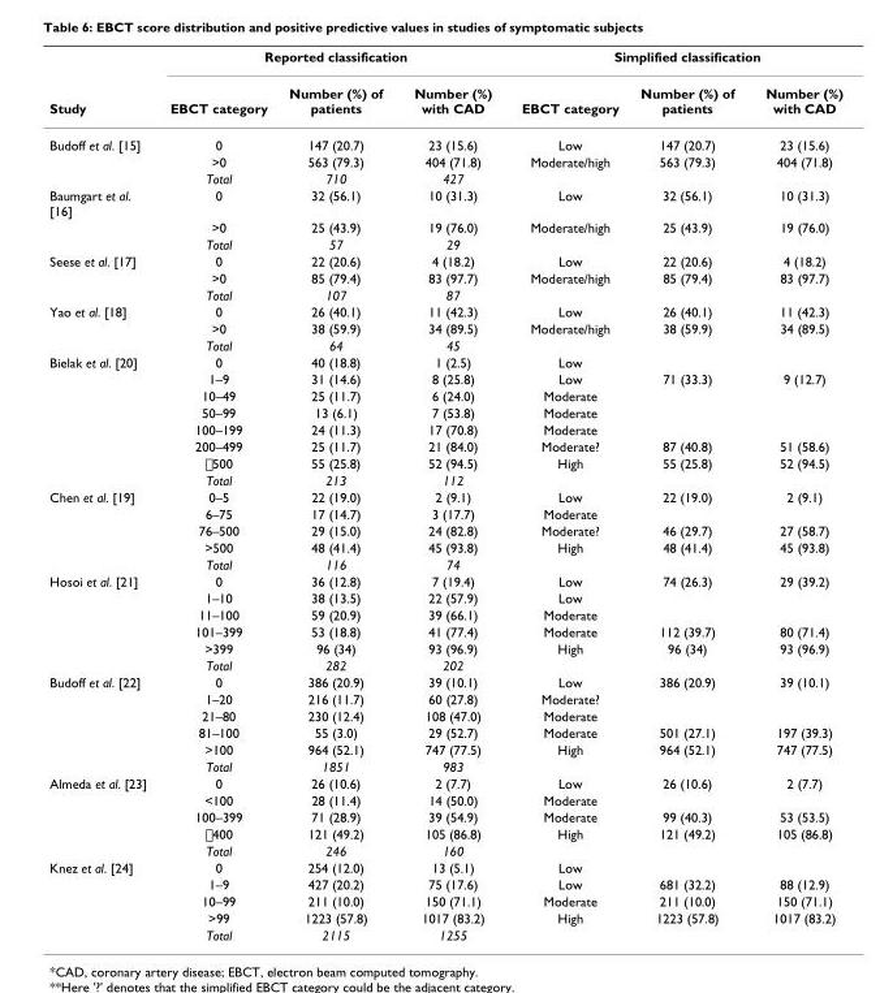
<table><thead><tr><td rowspan="2">Study</td><td colspan="3">Reported classification</td><td colspan="3">Simplified classification</td></tr><tr><td>EBCT category</td><td>Number (%) of patients</td><td>Number (%) with CAD</td><td>EBCT category</td><td>Number (%) of patients</td><td>Number (%) with CAD</td></tr></thead><tbody><tr><td rowspan="3">Budoff et al. [15]</td><td>0</td><td>147 (20.7)</td><td>23 (15.6)</td><td>Low</td><td>147 (20.7)</td><td>23 (15.6)</td></tr><tr><td>&gt;0</td><td>563 (79.3)</td><td>404 (71.8)</td><td>Moderate/high</td><td>563 (79.3)</td><td>404 (71.8)</td></tr><tr><td>Total</td><td>710</td><td>427</td><td></td><td></td><td></td></tr><tr><td rowspan="3">Baumgart et al. [16]</td><td>0</td><td>32 (56.1)</td><td>10 (31.3)</td><td>Low</td><td>32 (56.1)</td><td>10 (31.3)</td></tr><tr><td>&gt;0</td><td>25 (43.9)</td><td>19 (76.0)</td><td>Moderate/high</td><td>25 (43.9)</td><td>19 (76.0)</td></tr><tr><td>Total</td><td>57</td><td>29</td><td></td><td></td><td></td></tr><tr><td rowspan="3">Seese et al. [17]</td><td>0</td><td>22 (20.6)</td><td>4 (18.2)</td><td>Low</td><td>22 (20.6)</td><td>4 (18.2)</td></tr><tr><td>&gt;0</td><td>85 (79.4)</td><td>83 (97.7)</td><td>Moderate/high</td><td>85 (79.4)</td><td>83 (97.7)</td></tr><tr><td>Total</td><td>107</td><td>87</td><td></td><td></td><td></td></tr><tr><td rowspan="3">Yao et al. [18]</td><td>0</td><td>26 (40.1)</td><td>11 (42.3)</td><td>Low</td><td>26 (40.1)</td><td>11 (42.3)</td></tr><tr><td>&gt;0</td><td>38 (59.9)</td><td>34 (89.5)</td><td>Moderate/high</td><td>38 (59.9)</td><td>34 (89.5)</td></tr><tr><td>Total</td><td>64</td><td>45</td><td></td><td></td><td></td></tr><tr><td rowspan="8">Bielak et al. [20]</td><td>0</td><td>40 (18.8)</td><td>1 (2.5)</td><td>Low</td><td></td><td></td></tr><tr><td>1–9</td><td>31 (14.6)</td><td>8 (25.8)</td><td>Low</td><td>71 (33.3)</td><td>9 (12.7)</td></tr><tr><td>10–49</td><td>25 (11.7)</td><td>6 (24.0)</td><td>Moderate</td><td></td><td></td></tr><tr><td>50–99</td><td>13 (6.1)</td><td>7 (53.8)</td><td>Moderate</td><td></td><td></td></tr><tr><td>100–199</td><td>24 (11.3)</td><td>17 (70.8)</td><td>Moderate</td><td></td><td></td></tr><tr><td>200–499</td><td>25 (11.7)</td><td>21 (84.0)</td><td>Moderate?</td><td>87 (40.8)</td><td>51 (58.6)</td></tr><tr><td>≥500</td><td>55 (25.8)</td><td>52 (94.5)</td><td>High</td><td>55 (25.8)</td><td>52 (94.5)</td></tr><tr><td>Total</td><td>213</td><td>112</td><td></td><td></td><td></td></tr><tr><td rowspan="5">Chen et al. [19]</td><td>0–5</td><td>22 (19.0)</td><td>2 (9.1)</td><td>Low</td><td>22 (19.0)</td><td>2 (9.1)</td></tr><tr><td>6–75</td><td>17 (14.7)</td><td>3 (17.7)</td><td>Moderate</td><td></td><td></td></tr><tr><td>76–500</td><td>29 (15.0)</td><td>24 (82.8)</td><td>Moderate?</td><td>46 (29.7)</td><td>27 (58.7)</td></tr><tr><td>&gt;500</td><td>48 (41.4)</td><td>45 (93.8)</td><td>High</td><td>48 (41.4)</td><td>45 (93.8)</td></tr><tr><td>Total</td><td>116</td><td>74</td><td></td><td></td><td></td></tr><tr><td rowspan="6">Hosoi et al. [21]</td><td>0</td><td>36 (12.8)</td><td>7 (19.4)</td><td>Low</td><td>74 (26.3)</td><td>29 (39.2)</td></tr><tr><td>1–10</td><td>38 (13.5)</td><td>22 (57.9)</td><td>Low</td><td></td><td></td></tr><tr><td>11–100</td><td>59 (20.9)</td><td>39 (66.1)</td><td>Moderate</td><td></td><td></td></tr><tr><td>101–399</td><td>53 (18.8)</td><td>41 (77.4)</td><td>Moderate</td><td>112 (39.7)</td><td>80 (71.4)</td></tr><tr><td>&gt;399</td><td>96 (34)</td><td>93 (96.9)</td><td>High</td><td>96 (34)</td><td>93 (96.9)</td></tr><tr><td>Total</td><td>282</td><td>202</td><td></td><td></td><td></td></tr><tr><td rowspan="6">Budoff et al. [22]</td><td>0</td><td>386 (20.9)</td><td>39 (10.1)</td><td>Low</td><td>386 (20.9)</td><td>39 (10.1)</td></tr><tr><td>1–20</td><td>216 (11.7)</td><td>60 (27.8)</td><td>Moderate?</td><td></td><td></td></tr><tr><td>21–80</td><td>230 (12.4)</td><td>108 (47.0)</td><td>Moderate</td><td></td><td></td></tr><tr><td>81–100</td><td>55 (3.0)</td><td>29 (52.7)</td><td>Moderate</td><td>501 (27.1)</td><td>197 (39.3)</td></tr><tr><td>&gt;100</td><td>964 (52.1)</td><td>747 (77.5)</td><td>High</td><td>964 (52.1)</td><td>747 (77.5)</td></tr><tr><td>Total</td><td>1851</td><td>983</td><td></td><td></td><td></td></tr><tr><td rowspan="5">Almeda et al. [23]</td><td>0</td><td>26 (10.6)</td><td>2 (7.7)</td><td>Low</td><td>26 (10.6)</td><td>2 (7.7)</td></tr><tr><td>&lt;100</td><td>28 (11.4)</td><td>14 (50.0)</td><td>Moderate</td><td></td><td></td></tr><tr><td>100–399</td><td>71 (28.9)</td><td>39 (54.9)</td><td>Moderate</td><td>99 (40.3)</td><td>53 (53.5)</td></tr><tr><td>≥400</td><td>121 (49.2)</td><td>105 (86.8)</td><td>High</td><td>121 (49.2)</td><td>105 (86.8)</td></tr><tr><td>Total</td><td>246</td><td>160</td><td></td><td></td><td></td></tr><tr><td rowspan="5">Knez et al. [24]</td><td>0</td><td>254 (12.0)</td><td>13 (5.1)</td><td>Low</td><td></td><td></td></tr><tr><td>1–9</td><td>427 (20.2)</td><td>75 (17.6)</td><td>Low</td><td>681 (32.2)</td><td>88 (12.9)</td></tr><tr><td>10–99</td><td>211 (10.0)</td><td>150 (71.1)</td><td>Moderate</td><td>211 (10.0)</td><td>150 (71.1)</td></tr><tr><td>&gt;99</td><td>1223 (57.8)</td><td>1017 (83.2)</td><td>High</td><td>1223 (57.8)</td><td>1017 (83.2)</td></tr><tr><td>Total</td><td>2115</td><td>1255</td><td></td><td></td><td></td></tr></tbody></table>